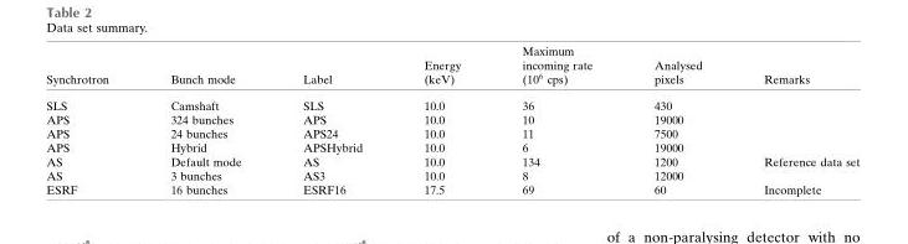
<table><thead><tr><td>Synchrotron</td><td>Bunch mode</td><td>Label</td><td>Energy (keV)</td><td>Maximum incoming rate (106 cps)</td><td>Analysed pixels</td><td>Remarks</td></tr></thead><tbody><tr><td>SLS</td><td>Camshaft</td><td>SLS</td><td>10.0</td><td>36</td><td>430</td><td></td></tr><tr><td>APS</td><td>324 bunches</td><td>APS</td><td>10.0</td><td>10</td><td>19000</td><td></td></tr><tr><td>APS</td><td>24 bunches</td><td>APS24</td><td>10.0</td><td>11</td><td>7500</td><td></td></tr><tr><td>APS</td><td>Hybrid</td><td>APSHybrid</td><td>10.0</td><td>6</td><td>19000</td><td></td></tr><tr><td>AS</td><td>Default mode</td><td>AS</td><td>10.0</td><td>134</td><td>1200</td><td>Reference data set</td></tr><tr><td>AS</td><td>3 bunches</td><td>AS3</td><td>10.0</td><td>8</td><td>12000</td><td></td></tr><tr><td>ESRF</td><td>16 bunches</td><td>ESRF16</td><td>17.5</td><td>69</td><td>60</td><td>Incomplete</td></tr></tbody></table>